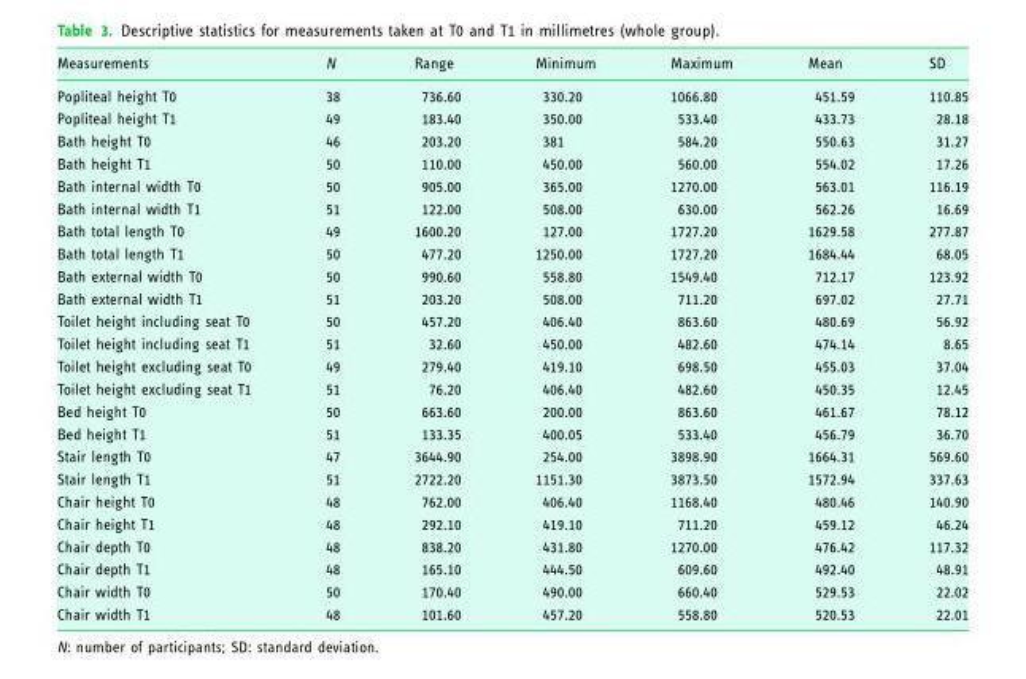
<table><thead><tr><td>Measurements</td><td>N</td><td>Range</td><td>Minimum</td><td>Maximum</td><td>Mean</td><td>SD</td></tr></thead><tbody><tr><td>Popliteal height T0</td><td>38</td><td>736.60</td><td>330.20</td><td>1066.80</td><td>451.59</td><td>110.85</td></tr><tr><td>Popliteal height T1</td><td>49</td><td>183.40</td><td>350.00</td><td>533.40</td><td>433.73</td><td>28.18</td></tr><tr><td>Bath height T0</td><td>46</td><td>203.20</td><td>381</td><td>584.20</td><td>550.63</td><td>31.27</td></tr><tr><td>Bath height T1</td><td>50</td><td>110.00</td><td>450.00</td><td>560.00</td><td>554.02</td><td>17.26</td></tr><tr><td>Bath internal width T0</td><td>50</td><td>905.00</td><td>365.00</td><td>1270.00</td><td>563.01</td><td>116.19</td></tr><tr><td>Bath internal width T1</td><td>51</td><td>122.00</td><td>508.00</td><td>630.00</td><td>562.26</td><td>16.69</td></tr><tr><td>Bath total length T0</td><td>49</td><td>1600.20</td><td>127.00</td><td>1727.20</td><td>1629.58</td><td>277.87</td></tr><tr><td>Bath total length T1</td><td>50</td><td>477.20</td><td>1250.00</td><td>1727.20</td><td>1684.44</td><td>68.05</td></tr><tr><td>Bath external width T0</td><td>50</td><td>990.60</td><td>558.80</td><td>1549.40</td><td>712.17</td><td>123.92</td></tr><tr><td>Bath external width T1</td><td>51</td><td>203.20</td><td>508.00</td><td>711.20</td><td>697.02</td><td>27.71</td></tr><tr><td>Toilet height including seat T0</td><td>50</td><td>457.20</td><td>406.40</td><td>863.60</td><td>480.69</td><td>56.92</td></tr><tr><td>Toilet height including seat T1</td><td>51</td><td>32.60</td><td>450.00</td><td>482.60</td><td>474.14</td><td>8.65</td></tr><tr><td>Toilet height excluding seat T0</td><td>49</td><td>279.40</td><td>419.10</td><td>698.50</td><td>455.03</td><td>37.04</td></tr><tr><td>Toilet height excluding seat T1</td><td>51</td><td>76.20</td><td>406.40</td><td>482.60</td><td>450.35</td><td>12.45</td></tr><tr><td>Bed height T0</td><td>50</td><td>663.60</td><td>200.00</td><td>863.60</td><td>461.67</td><td>78.12</td></tr><tr><td>Bed height T1</td><td>51</td><td>133.35</td><td>400.05</td><td>533.40</td><td>456.79</td><td>36.70</td></tr><tr><td>Stair length T0</td><td>47</td><td>3644.90</td><td>254.00</td><td>3898.90</td><td>1664.31</td><td>569.60</td></tr><tr><td>Stair length T1</td><td>51</td><td>2722.20</td><td>1151.30</td><td>3873.50</td><td>1572.94</td><td>337.63</td></tr><tr><td>Chair height T0</td><td>48</td><td>762.00</td><td>406.40</td><td>1168.40</td><td>480.46</td><td>140.90</td></tr><tr><td>Chair height T1</td><td>48</td><td>292.10</td><td>419.10</td><td>711.20</td><td>459.12</td><td>46.24</td></tr><tr><td>Chair depth T0</td><td>48</td><td>838.20</td><td>431.80</td><td>1270.00</td><td>476.42</td><td>117.32</td></tr><tr><td>Chair depth T1</td><td>48</td><td>165.10</td><td>444.50</td><td>609.60</td><td>492.40</td><td>48.91</td></tr><tr><td>Chair width T0</td><td>50</td><td>170.40</td><td>490.00</td><td>660.40</td><td>529.53</td><td>22.02</td></tr><tr><td>Chair width T1</td><td>48</td><td>101.60</td><td>457.20</td><td>558.80</td><td>520.53</td><td>22.01</td></tr></tbody></table>